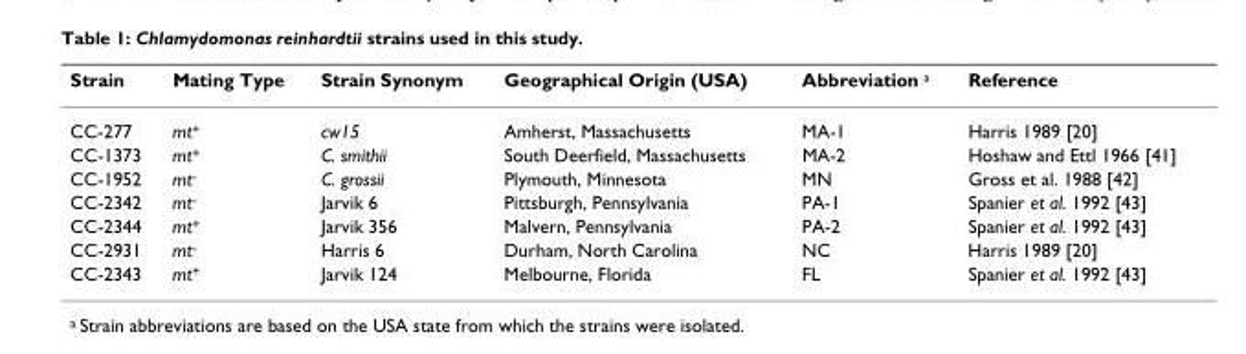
<table><thead><tr><td>Strain</td><td>Mating Type</td><td>Strain Synonym</td><td>Geographical Origin (USA)</td><td>Abbreviation <sup>a</sup></td><td>Reference</td></tr></thead><tbody><tr><td>CC-277</td><td>mt<sup>+</sup></td><td>cw15</td><td>Amherst, Massachusetts</td><td>MA-1</td><td>Harris 1989 [20]</td></tr><tr><td>CC-1373</td><td>mt<sup>+</sup></td><td>C. smithii</td><td>South Deerfield, Massachusetts</td><td>MA-2</td><td>Hoshaw and Ettl 1966 [41]</td></tr><tr><td>CC-1952</td><td>mt<sup>-</sup></td><td>C. grossii</td><td>Plymouth, Minnesota</td><td>MN</td><td>Gross et al. 1988 [42]</td></tr><tr><td>CC-2342</td><td>mt<sup>-</sup></td><td>Jarvik 6</td><td>Pittsburgh, Pennsylvania</td><td>PA-1</td><td>Spanier et al. 1992 [43]</td></tr><tr><td>CC-2344</td><td>mt<sup>+</sup></td><td>Jarvik 356</td><td>Malvern, Pennsylvania</td><td>PA-2</td><td>Spanier et al. 1992 [43]</td></tr><tr><td>CC-2931</td><td>mt<sup>-</sup></td><td>Harris 6</td><td>Durham, North Carolina</td><td>NC</td><td>Harris 1989 [20]</td></tr><tr><td>CC-2343</td><td>mt<sup>+</sup></td><td>Jarvik 124</td><td>Melbourne, Florida</td><td>FL</td><td>Spanier et al. 1992 [43]</td></tr></tbody></table>